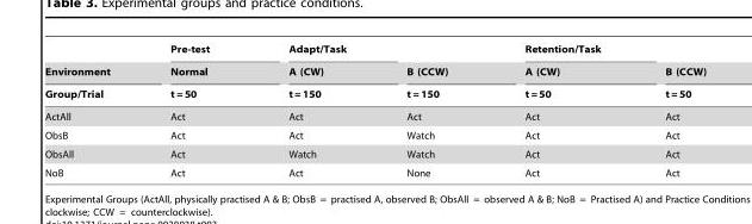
<table><thead><tr><td rowspan="3">Environment Group/Trial</td><td rowspan="3">Pre-test Normal t = 50</td><td rowspan="3">Adapt/Task A (CW) t = 150</td><td rowspan="3">B (CCW) t = 150</td><td rowspan="3">Retention/Task A (CW) t = 50</td><td rowspan="3">B (CCW) t = 50</td></tr><tr></tr><tr></tr></thead><tbody><tr><td>ActAll</td><td>Act</td><td>Act</td><td>Act</td><td>Act</td><td>Act</td></tr><tr><td>ObsB</td><td>Act</td><td>Act</td><td>Watch</td><td>Act</td><td>Act</td></tr><tr><td>ObsAll</td><td>Act</td><td>Watch</td><td>Watch</td><td>Act</td><td>Act</td></tr><tr><td>NoB</td><td>Act</td><td>Act</td><td>None</td><td>Act</td><td>Act</td></tr></tbody></table>